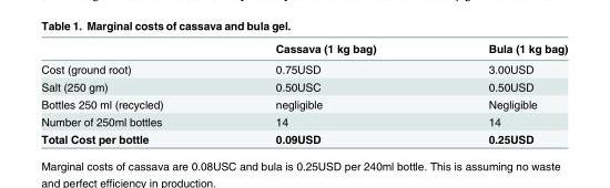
<table><thead><tr><td></td><td>Cassava (1 kg bag)</td><td>Bula (1 kg bag)</td></tr></thead><tbody><tr><td>Cost (ground root)</td><td>0.75USD</td><td>3.00USD</td></tr><tr><td>Salt (250 gm)</td><td>0.50USC</td><td>0.50USD</td></tr><tr><td>Bottles 250 ml (recycled)</td><td>negligible</td><td>Negligible</td></tr><tr><td>Number of 250ml bottles</td><td>14</td><td>14</td></tr><tr><td>Total Cost per bottle</td><td>0.09USD</td><td>0.25USD</td></tr></tbody></table>